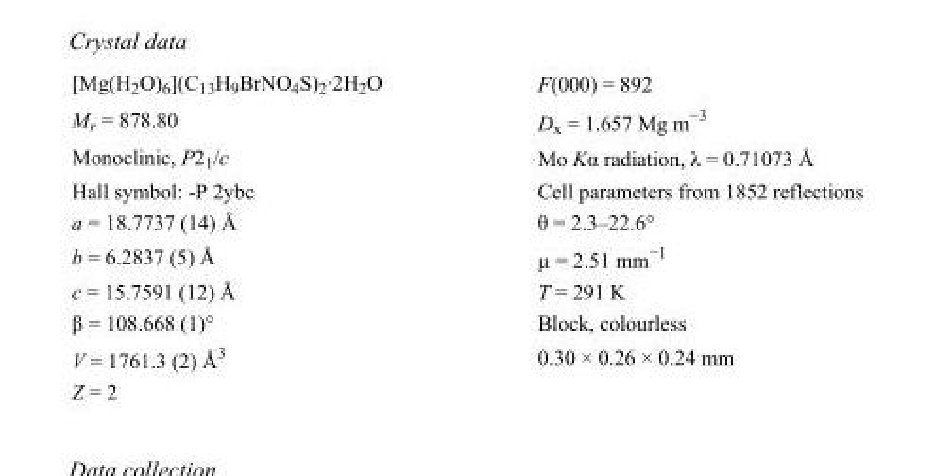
<table><tbody><tr><td>[Mg(H<sub>2</sub>O)<sub>6</sub>](C<sub>13</sub>H<sub>9</sub>BrNO<sub>4</sub>S)<sub>2</sub>·2H<sub>2</sub>O</td><td>F(000) = 892</td></tr><tr><td>M<sub>r</sub> = 878.80</td><td>D<sub>x</sub> = 1.657 Mg m<sup>−3</sup></td></tr><tr><td>Monoclinic, P2<sub>1</sub>/c</td><td>Mo Kα radiation, λ = 0.71073 Å</td></tr><tr><td>Hall symbol: -P 2ybc</td><td>Cell parameters from 1852 reflections</td></tr><tr><td>a = 18.7737 (14) Å</td><td>θ = 2.3–22.6°</td></tr><tr><td>b = 6.2837 (5) Å</td><td>µ = 2.51 mm<sup>−1</sup></td></tr><tr><td>c = 15.7591 (12) Å</td><td>T = 291 K</td></tr><tr><td>β = 108.668 (1)°</td><td>Block, colourless</td></tr><tr><td>V = 1761.3 (2) Å<sup>3</sup></td><td>0.30 × 0.26 × 0.24 mm</td></tr><tr><td>Z = 2</td><td></td></tr></tbody></table>